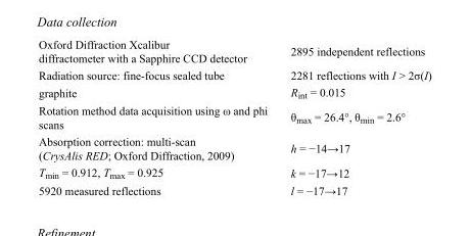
<table><tbody><tr><td>Oxford Diffraction Xcalibur diffractometer with a Sapphire CCD detector</td><td>2895 independent reflections</td></tr><tr><td>Radiation source: fine-focus sealed tube</td><td>2281 reflections with I &gt; 2σ(I)</td></tr><tr><td>graphite</td><td>R<sub>int</sub> = 0.015</td></tr><tr><td>Rotation method data acquisition using ω and phi scans</td><td>θ<sub>max</sub> = 26.4°, θ<sub>min</sub> = 2.6°</td></tr><tr><td>Absorption correction: multi-scan (CrysAlis RED; Oxford Diffraction, 2009)</td><td>h = −14→17</td></tr><tr><td>T<sub>min</sub> = 0.912, T<sub>max</sub> = 0.925</td><td>k = −17→12</td></tr><tr><td>5920 measured reflections</td><td>l = −17→17</td></tr></tbody></table>